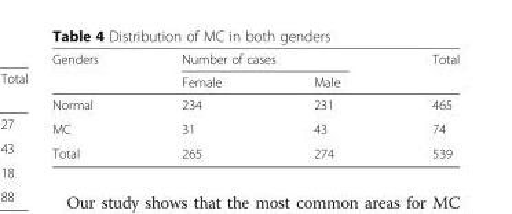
<table><thead><tr><td rowspan="2">Genders</td><td colspan="2">Number of cases</td><td rowspan="2">Total</td></tr><tr><td>Female</td><td>Male</td></tr></thead><tbody><tr><td>Normal</td><td>234</td><td>231</td><td>465</td></tr><tr><td>MC</td><td>31</td><td>43</td><td>74</td></tr><tr><td>Total</td><td>265</td><td>274</td><td>539</td></tr></tbody></table>